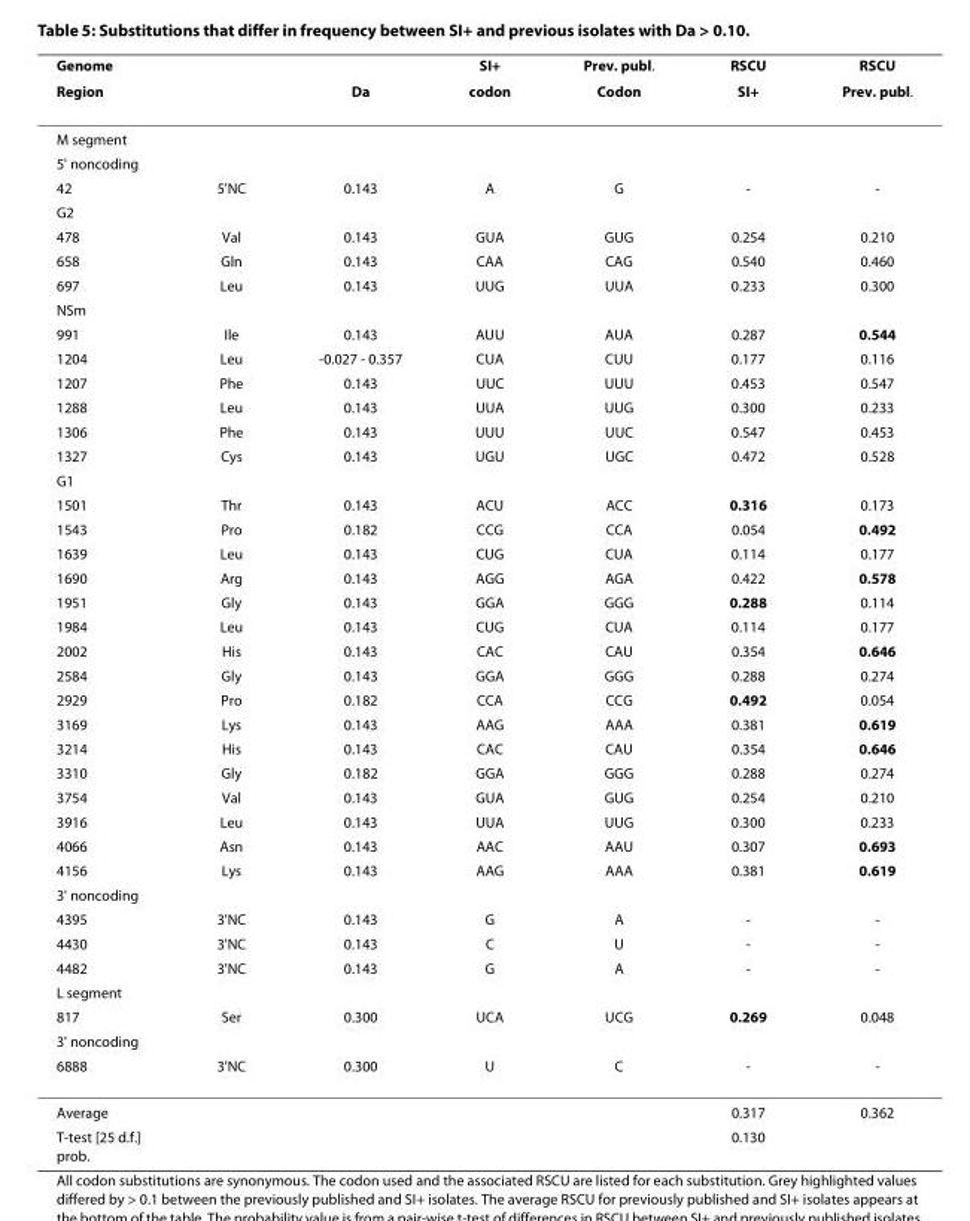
<table><thead><tr><td rowspan="2">Genome Region</td><td rowspan="2"></td><td rowspan="2">Da</td><td rowspan="2">SI+ codon</td><td rowspan="2">Prev. publ. Codon</td><td rowspan="2">RSCU SI+</td><td rowspan="2">RSCU Prev. publ.</td></tr><tr></tr></thead><tbody><tr><td colspan="7">M segment</td></tr><tr><td colspan="7">5&#x27; noncoding</td></tr><tr><td>42</td><td>5&#x27;NC</td><td>0.143</td><td>A</td><td>G</td><td>-</td><td>-</td></tr><tr><td colspan="7">G2</td></tr><tr><td>478</td><td>Val</td><td>0.143</td><td>GUA</td><td>GUG</td><td>0.254</td><td>0.210</td></tr><tr><td>658</td><td>Gln</td><td>0.143</td><td>CAA</td><td>CAG</td><td>0.540</td><td>0.460</td></tr><tr><td>697</td><td>Leu</td><td>0.143</td><td>UUG</td><td>UUA</td><td>0.233</td><td>0.300</td></tr><tr><td colspan="7">NSm</td></tr><tr><td>991</td><td>Ile</td><td>0.143</td><td>AUU</td><td>AUA</td><td>0.287</td><td>0.544</td></tr><tr><td>1204</td><td>Leu</td><td>-0.027 - 0.357</td><td>CUA</td><td>CUU</td><td>0.177</td><td>0.116</td></tr><tr><td>1207</td><td>Phe</td><td>0.143</td><td>UUC</td><td>UUU</td><td>0.453</td><td>0.547</td></tr><tr><td>1288</td><td>Leu</td><td>0.143</td><td>UUA</td><td>UUG</td><td>0.300</td><td>0.233</td></tr><tr><td>1306</td><td>Phe</td><td>0.143</td><td>UUU</td><td>UUC</td><td>0.547</td><td>0.453</td></tr><tr><td>1327</td><td>Cys</td><td>0.143</td><td>UGU</td><td>UGC</td><td>0.472</td><td>0.528</td></tr><tr><td colspan="7">G1</td></tr><tr><td>1501</td><td>Thr</td><td>0.143</td><td>ACU</td><td>ACC</td><td>0.316</td><td>0.173</td></tr><tr><td>1543</td><td>Pro</td><td>0.182</td><td>CCG</td><td>CCA</td><td>0.054</td><td>0.492</td></tr><tr><td>1639</td><td>Leu</td><td>0.143</td><td>CUG</td><td>CUA</td><td>0.114</td><td>0.177</td></tr><tr><td>1690</td><td>Arg</td><td>0.143</td><td>AGG</td><td>AGA</td><td>0.422</td><td>0.578</td></tr><tr><td>1951</td><td>Gly</td><td>0.143</td><td>GGA</td><td>GGG</td><td>0.288</td><td>0.114</td></tr><tr><td>1984</td><td>Leu</td><td>0.143</td><td>CUG</td><td>CUA</td><td>0.114</td><td>0.177</td></tr><tr><td>2002</td><td>His</td><td>0.143</td><td>CAC</td><td>CAU</td><td>0.354</td><td>0.646</td></tr><tr><td>2584</td><td>Gly</td><td>0.143</td><td>GGA</td><td>GGG</td><td>0.288</td><td>0.274</td></tr><tr><td>2929</td><td>Pro</td><td>0.182</td><td>CCA</td><td>CCG</td><td>0.492</td><td>0.054</td></tr><tr><td>3169</td><td>Lys</td><td>0.143</td><td>AAG</td><td>AAA</td><td>0.381</td><td>0.619</td></tr><tr><td>3214</td><td>His</td><td>0.143</td><td>CAC</td><td>CAU</td><td>0.354</td><td>0.646</td></tr><tr><td>3310</td><td>Gly</td><td>0.182</td><td>GGA</td><td>GGG</td><td>0.288</td><td>0.274</td></tr><tr><td>3754</td><td>Val</td><td>0.143</td><td>GUA</td><td>GUG</td><td>0.254</td><td>0.210</td></tr><tr><td>3916</td><td>Leu</td><td>0.143</td><td>UUA</td><td>UUG</td><td>0.300</td><td>0.233</td></tr><tr><td>4066</td><td>Asn</td><td>0.143</td><td>AAC</td><td>AAU</td><td>0.307</td><td>0.693</td></tr><tr><td>4156</td><td>Lys</td><td>0.143</td><td>AAG</td><td>AAA</td><td>0.381</td><td>0.619</td></tr><tr><td colspan="7">3&#x27; noncoding</td></tr><tr><td>4395</td><td>3&#x27;NC</td><td>0.143</td><td>G</td><td>A</td><td>-</td><td>-</td></tr><tr><td>4430</td><td>3&#x27;NC</td><td>0.143</td><td>C</td><td>U</td><td>-</td><td>-</td></tr><tr><td>4482</td><td>3&#x27;NC</td><td>0.143</td><td>G</td><td>A</td><td>-</td><td>-</td></tr><tr><td colspan="7">L segment</td></tr><tr><td>817</td><td>Ser</td><td>0.300</td><td>UCA</td><td>UCG</td><td>0.269</td><td>0.048</td></tr><tr><td colspan="7">3&#x27; noncoding</td></tr><tr><td>6888</td><td>3&#x27;NC</td><td>0.300</td><td>U</td><td>C</td><td>-</td><td>-</td></tr><tr><td>Average</td><td></td><td></td><td></td><td></td><td>0.317</td><td>0.362</td></tr><tr><td>T-test [25 d.f.] prob.</td><td></td><td></td><td></td><td></td><td>0.130</td><td></td></tr></tbody></table>